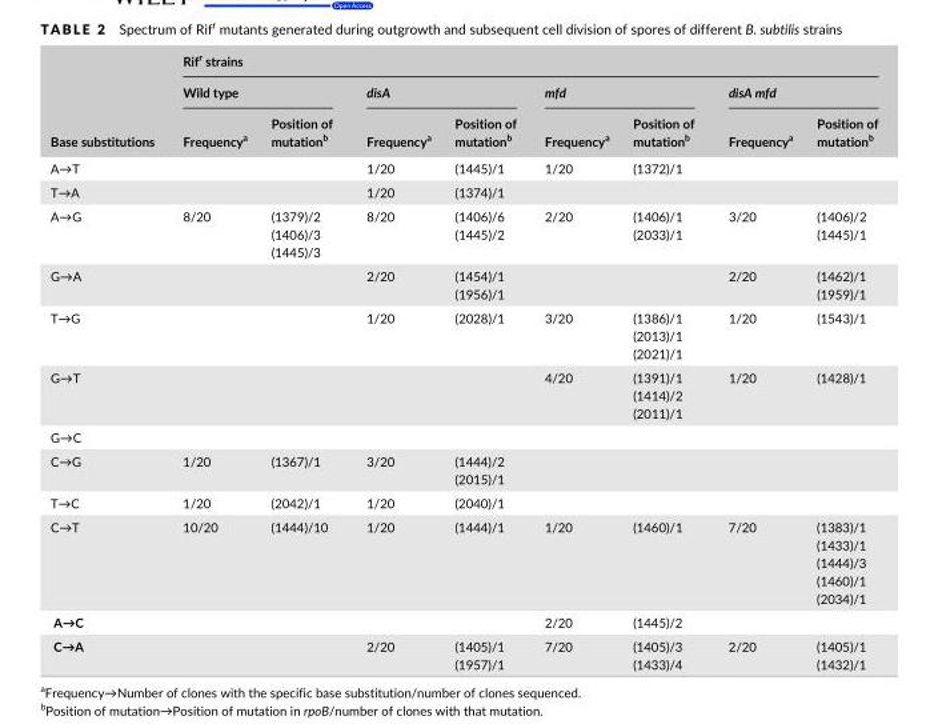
<table><thead><tr><td rowspan="3">Base substitutions</td><td colspan="8">Rif<sup>r</sup> strains</td></tr><tr><td colspan="2">Wild type</td><td colspan="2">disA</td><td colspan="2">mfd</td><td colspan="2">disA mfd</td></tr><tr><td>Frequency<sup>a</sup></td><td>Position of mutation<sup>b</sup></td><td>Frequency<sup>a</sup></td><td>Position of mutation<sup>b</sup></td><td>Frequency<sup>a</sup></td><td>Position of mutation<sup>b</sup></td><td>Frequency<sup>a</sup></td><td>Position of mutation<sup>b</sup></td></tr></thead><tbody><tr><td>A→T</td><td></td><td></td><td>1/20</td><td>(1445)/1</td><td>1/20</td><td>(1372)/1</td><td></td><td></td></tr><tr><td>T→A</td><td></td><td></td><td>1/20</td><td>(1374)/1</td><td></td><td></td><td></td><td></td></tr><tr><td>A→G</td><td>8/20</td><td>(1379)/2 (1406)/3 (1445)/3</td><td>8/20</td><td>(1406)/6 (1445)/2</td><td>2/20</td><td>(1406)/1 (2033)/1</td><td>3/20</td><td>(1406)/2 (1445)/1</td></tr><tr><td>G→A</td><td></td><td></td><td>2/20</td><td>(1454)/1 (1956)/1</td><td></td><td></td><td>2/20</td><td>(1462)/1 (1959)/1</td></tr><tr><td>T→G</td><td></td><td></td><td>1/20</td><td>(2028)/1</td><td>3/20</td><td>(1386)/1 (2013)/1 (2021)/1</td><td>1/20</td><td>(1543)/1</td></tr><tr><td>G→T</td><td></td><td></td><td></td><td></td><td>4/20</td><td>(1391)/1 (1414)/2 (2011)/1</td><td>1/20</td><td>(1428)/1</td></tr><tr><td colspan="9">G→C</td></tr><tr><td>C→G</td><td>1/20</td><td>(1367)/1</td><td>3/20</td><td>(1444)/2 (2015)/1</td><td></td><td></td><td></td><td></td></tr><tr><td>T→C</td><td>1/20</td><td>(2042)/1</td><td>1/20</td><td>(2040)/1</td><td></td><td></td><td></td><td></td></tr><tr><td>C→T</td><td>10/20</td><td>(1444)/10</td><td>1/20</td><td>(1444)/1</td><td>1/20</td><td>(1460)/1</td><td>7/20</td><td>(1383)/1 (1433)/1 (1444)/3 (1460)/1 (2034)/1</td></tr><tr><td>A→C</td><td></td><td></td><td></td><td></td><td>2/20</td><td>(1445)/2</td><td></td><td></td></tr><tr><td>C→A</td><td></td><td></td><td>2/20</td><td>(1405)/1 (1957)/1</td><td>7/20</td><td>(1405)/3 (1433)/4</td><td>2/20</td><td>(1405)/1 (1432)/1</td></tr></tbody></table>